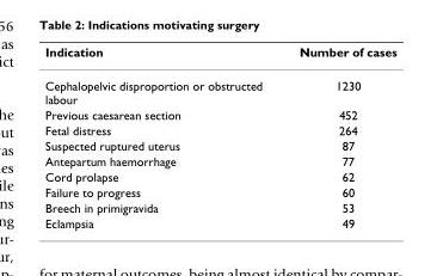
<table><thead><tr><td>Indication</td><td>Number of cases</td></tr></thead><tbody><tr><td>Cephalopelvic disproportion or obstructed labour</td><td>1230</td></tr><tr><td>Previous caesarean section</td><td>452</td></tr><tr><td>Fetal distress</td><td>264</td></tr><tr><td>Suspected ruptured uterus</td><td>87</td></tr><tr><td>Antepartum haemorrhage</td><td>77</td></tr><tr><td>Cord prolapse</td><td>62</td></tr><tr><td>Failure to progress</td><td>60</td></tr><tr><td>Breech in primigravida</td><td>53</td></tr><tr><td>Eclampsia</td><td>49</td></tr></tbody></table>